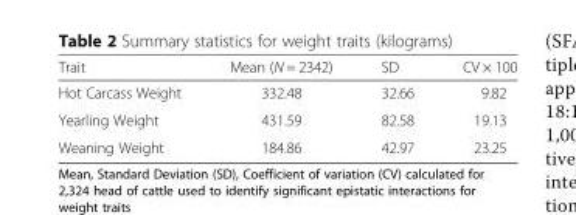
<table><thead><tr><td>Trait</td><td>Mean (N = 2342)</td><td>SD</td><td>CV × 100</td></tr></thead><tbody><tr><td>Hot Carcass Weight</td><td>332.48</td><td>32.66</td><td>9.82</td></tr><tr><td>Yearling Weight</td><td>431.59</td><td>82.58</td><td>19.13</td></tr><tr><td>Weaning Weight</td><td>184.86</td><td>42.97</td><td>23.25</td></tr></tbody></table>